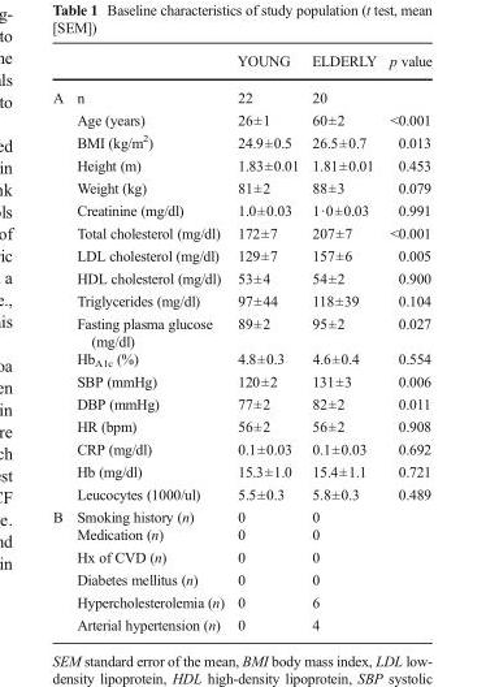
<table><thead><tr><td></td><td></td><td>YOUNG</td><td>ELDERLY</td><td>p value</td></tr></thead><tbody><tr><td rowspan="18">A</td><td>n</td><td>22</td><td>20</td><td></td></tr><tr><td>Age (years)</td><td>26±1</td><td>60±2</td><td>&lt;0.001</td></tr><tr><td>BMI (kg/m<sup>2</sup>)</td><td>24.9±0.5</td><td>26.5±0.7</td><td>0.013</td></tr><tr><td>Height (m)</td><td>1.83±0.01</td><td>1.81±0.01</td><td>0.453</td></tr><tr><td>Weight (kg)</td><td>81±2</td><td>88±3</td><td>0.079</td></tr><tr><td>Creatinine (mg/dl)</td><td>1.0±0.03</td><td>1·0±0.03</td><td>0.991</td></tr><tr><td>Total cholesterol (mg/dl)</td><td>172±7</td><td>207±7</td><td>&lt;0.001</td></tr><tr><td>LDL cholesterol (mg/dl)</td><td>129±7</td><td>157±6</td><td>0.005</td></tr><tr><td>HDL cholesterol (mg/dl)</td><td>53±4</td><td>54±2</td><td>0.900</td></tr><tr><td>Triglycerides (mg/dl)</td><td>97±44</td><td>118±39</td><td>0.104</td></tr><tr><td>Fasting plasma glucose (mg/dl)</td><td>89±2</td><td>95±2</td><td>0.027</td></tr><tr><td>Hb<sub>A1c</sub> (%)</td><td>4.8±0.3</td><td>4.6±0.4</td><td>0.554</td></tr><tr><td>SBP (mmHg)</td><td>120±2</td><td>131±3</td><td>0.006</td></tr><tr><td>DBP (mmHg)</td><td>77±2</td><td>82±2</td><td>0.011</td></tr><tr><td>HR (bpm)</td><td>56±2</td><td>56±2</td><td>0.908</td></tr><tr><td>CRP (mg/dl)</td><td>0.1±0.03</td><td>0.1±0.03</td><td>0.692</td></tr><tr><td>Hb (mg/dl)</td><td>15.3±1.0</td><td>15.4±1.1</td><td>0.721</td></tr><tr><td>Leucocytes (1000/ul)</td><td>5.5±0.3</td><td>5.8±0.3</td><td>0.489</td></tr><tr><td rowspan="6">B</td><td>Smoking history (n)</td><td>0</td><td>0</td><td rowspan="6"></td></tr><tr><td>Medication (n)</td><td>0</td><td>0</td></tr><tr><td>Hx of CVD (n)</td><td>0</td><td>0</td></tr><tr><td>Diabetes mellitus (n)</td><td>0</td><td>0</td></tr><tr><td>Hypercholesterolemia (n)</td><td>0</td><td>6</td></tr><tr><td>Arterial hypertension (n)</td><td>0</td><td>4</td></tr></tbody></table>